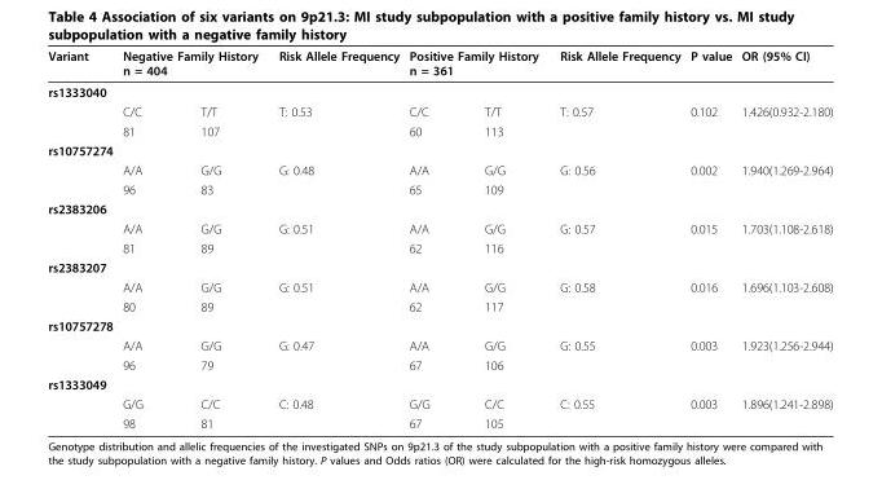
<table><thead><tr><td rowspan="2">Variant rs1333040</td><td colspan="2">Negative Family History n = 404</td><td rowspan="2">Risk Allele Frequency</td><td colspan="2">Positive Family History n = 361</td><td rowspan="2">Risk Allele Frequency</td><td rowspan="2">P value</td><td rowspan="2">OR (95% CI)</td></tr><tr><td></td><td></td><td></td><td></td></tr></thead><tbody><tr><td></td><td>C/C</td><td>T/T</td><td>T: 0.53</td><td>C/C</td><td>T/T</td><td>T: 0.57</td><td>0.102</td><td>1.426(0.932-2.180)</td></tr><tr><td></td><td>81</td><td>107</td><td></td><td>60</td><td>113</td><td></td><td></td><td></td></tr><tr><td colspan="9">rs10757274</td></tr><tr><td></td><td>A/A</td><td>G/G</td><td>G: 0.48</td><td>A/A</td><td>G/G</td><td>G: 0.56</td><td>0.002</td><td>1.940(1.269-2.964)</td></tr><tr><td></td><td>96</td><td>83</td><td></td><td>65</td><td>109</td><td></td><td></td><td></td></tr><tr><td colspan="9">rs2383206</td></tr><tr><td></td><td>A/A</td><td>G/G</td><td>G: 0.51</td><td>A/A</td><td>G/G</td><td>G: 0.57</td><td>0.015</td><td>1.703(1.108-2.618)</td></tr><tr><td></td><td>81</td><td>89</td><td></td><td>62</td><td>116</td><td></td><td></td><td></td></tr><tr><td colspan="9">rs2383207</td></tr><tr><td></td><td>A/A</td><td>G/G</td><td>G: 0.51</td><td>A/A</td><td>G/G</td><td>G: 0.58</td><td>0.016</td><td>1.696(1.103-2.608)</td></tr><tr><td></td><td>80</td><td>89</td><td></td><td>62</td><td>117</td><td></td><td></td><td></td></tr><tr><td colspan="9">rs10757278</td></tr><tr><td></td><td>A/A</td><td>G/G</td><td>G: 0.47</td><td>A/A</td><td>G/G</td><td>G: 0.55</td><td>0.003</td><td>1.923(1.256-2.944)</td></tr><tr><td></td><td>96</td><td>79</td><td></td><td>67</td><td>106</td><td></td><td></td><td></td></tr><tr><td colspan="9">rs1333049</td></tr><tr><td></td><td>G/G</td><td>C/C</td><td>C: 0.48</td><td>G/G</td><td>C/C</td><td>C: 0.55</td><td>0.003</td><td>1.896(1.241-2.898)</td></tr><tr><td></td><td>98</td><td>81</td><td></td><td>67</td><td>105</td><td></td><td></td><td></td></tr></tbody></table>